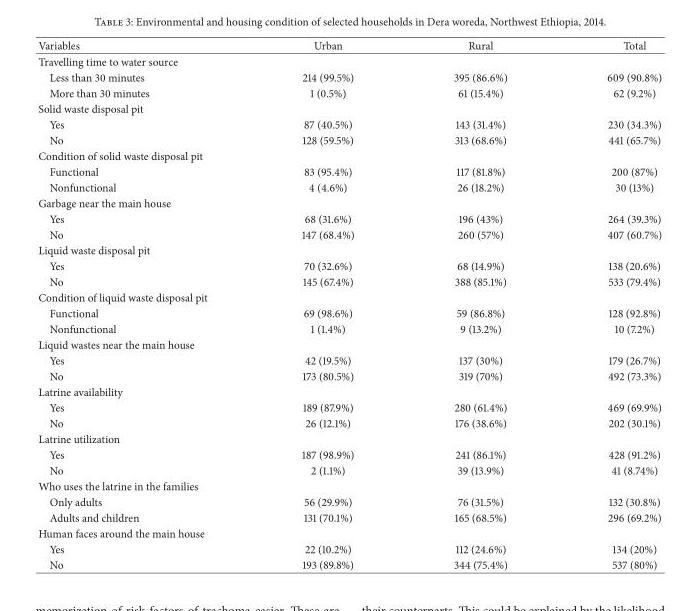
<table><thead><tr><td>Variables</td><td>Urban</td><td>Rural</td><td>Total</td></tr></thead><tbody><tr><td colspan="4">Travelling time to water source</td></tr><tr><td>Less than 30 minutes</td><td>214 (99.5%)</td><td>395 (86.6%)</td><td>609 (90.8%)</td></tr><tr><td>More than 30 minutes</td><td>1 (0.5%)</td><td>61 (15.4%)</td><td>62 (9.2%)</td></tr><tr><td colspan="4">Solid waste disposal pit</td></tr><tr><td>Yes</td><td>87 (40.5%)</td><td>143 (31.4%)</td><td>230 (34.3%)</td></tr><tr><td>No</td><td>128 (59.5%)</td><td>313 (68.6%)</td><td>441 (65.7%)</td></tr><tr><td colspan="4">Condition of solid waste disposal pit</td></tr><tr><td>Functional</td><td>83 (95.4%)</td><td>117 (81.8%)</td><td>200 (87%)</td></tr><tr><td>Nonfunctional</td><td>4 (4.6%)</td><td>26 (18.2%)</td><td>30 (13%)</td></tr><tr><td colspan="4">Garbage near the main house</td></tr><tr><td>Yes</td><td>68 (31.6%)</td><td>196 (43%)</td><td>264 (39.3%)</td></tr><tr><td>No</td><td>147 (68.4%)</td><td>260 (57%)</td><td>407 (60.7%)</td></tr><tr><td colspan="4">Liquid waste disposal pit</td></tr><tr><td>Yes</td><td>70 (32.6%)</td><td>68 (14.9%)</td><td>138 (20.6%)</td></tr><tr><td>No</td><td>145 (67.4%)</td><td>388 (85.1%)</td><td>533 (79.4%)</td></tr><tr><td colspan="4">Condition of liquid waste disposal pit</td></tr><tr><td>Functional</td><td>69 (98.6%)</td><td>59 (86.8%)</td><td>128 (92.8%)</td></tr><tr><td>Nonfunctional</td><td>1 (1.4%)</td><td>9 (13.2%)</td><td>10 (7.2%)</td></tr><tr><td colspan="4">Liquid wastes near the main house</td></tr><tr><td>Yes</td><td>42 (19.5%)</td><td>137 (30%)</td><td>179 (26.7%)</td></tr><tr><td>No</td><td>173 (80.5%)</td><td>319 (70%)</td><td>492 (73.3%)</td></tr><tr><td colspan="4">Latrine availability</td></tr><tr><td>Yes</td><td>189 (87.9%)</td><td>280 (61.4%)</td><td>469 (69.9%)</td></tr><tr><td>No</td><td>26 (12.1%)</td><td>176 (38.6%)</td><td>202 (30.1%)</td></tr><tr><td colspan="4">Latrine utilization</td></tr><tr><td>Yes</td><td>187 (98.9%)</td><td>241 (86.1%)</td><td>428 (91.2%)</td></tr><tr><td>No</td><td>2 (1.1%)</td><td>39 (13.9%)</td><td>41 (8.74%)</td></tr><tr><td colspan="4">Who uses the latrine in the families</td></tr><tr><td>Only adults</td><td>56 (29.9%)</td><td>76 (31.5%)</td><td>132 (30.8%)</td></tr><tr><td>Adults and children</td><td>131 (70.1%)</td><td>165 (68.5%)</td><td>296 (69.2%)</td></tr><tr><td colspan="4">Human faces around the main house</td></tr><tr><td>Yes</td><td>22 (10.2%)</td><td>112 (24.6%)</td><td>134 (20%)</td></tr><tr><td>No</td><td>193 (89.8%)</td><td>344 (75.4%)</td><td>537 (80%)</td></tr></tbody></table>